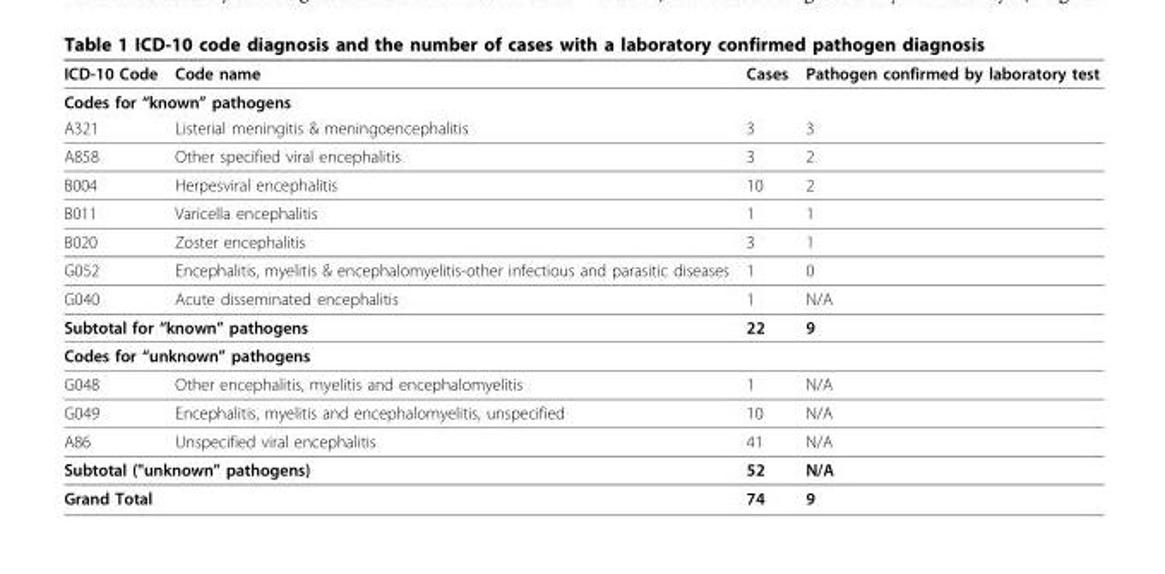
<table><thead><tr><td>ICD-10 Code</td><td>Code name</td><td>Cases</td><td>Pathogen confirmed by laboratory test</td></tr></thead><tbody><tr><td colspan="4">Codes for “known” pathogens</td></tr><tr><td>A321</td><td>Listerial meningitis &amp; meningoencephalitis</td><td>3</td><td>3</td></tr><tr><td>A858</td><td>Other specified viral encephalitis</td><td>3</td><td>2</td></tr><tr><td>B004</td><td>Herpesviral encephalitis</td><td>10</td><td>2</td></tr><tr><td>B011</td><td>Varicella encephalitis</td><td>1</td><td>1</td></tr><tr><td>B020</td><td>Zoster encephalitis</td><td>3</td><td>1</td></tr><tr><td>G052</td><td>Encephalitis, myelitis &amp; encephalomyelitis-other infectious and parasitic diseases</td><td>1</td><td>0</td></tr><tr><td>G040</td><td>Acute disseminated encephalitis</td><td>1</td><td>N/A</td></tr><tr><td colspan="2">Subtotal for “known” pathogens</td><td>22</td><td>9</td></tr><tr><td colspan="4">Codes for “unknown” pathogens</td></tr><tr><td>G048</td><td>Other encephalitis, myelitis and encephalomyelitis</td><td>1</td><td>N/A</td></tr><tr><td>G049</td><td>Encephalitis, myelitis and encephalomyelitis, unspecified</td><td>10</td><td>N/A</td></tr><tr><td>A86</td><td>Unspecified viral encephalitis</td><td>41</td><td>N/A</td></tr><tr><td colspan="2">Subtotal (&quot;unknown” pathogens)</td><td>52</td><td>N/A</td></tr><tr><td>Grand Total</td><td></td><td>74</td><td>9</td></tr></tbody></table>